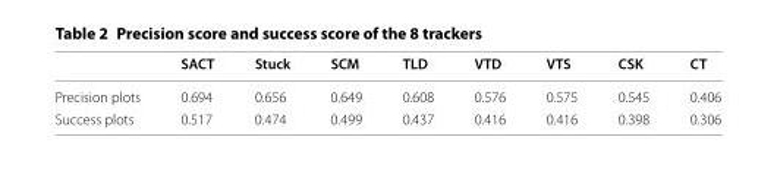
<table><thead><tr><td></td><td>SACT</td><td>Stuck</td><td>SCM</td><td>TLD</td><td>VTD</td><td>VTS</td><td>CSK</td><td>CT</td></tr></thead><tbody><tr><td>Precision plots</td><td>0.694</td><td>0.656</td><td>0.649</td><td>0.608</td><td>0.576</td><td>0.575</td><td>0.545</td><td>0.406</td></tr><tr><td>Success plots</td><td>0.517</td><td>0.474</td><td>0.499</td><td>0.437</td><td>0.416</td><td>0.416</td><td>0.398</td><td>0.306</td></tr></tbody></table>